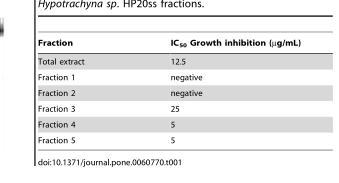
<table><thead><tr><td>Fraction</td><td>IC<sub>50</sub> Growth inhibition (µg/mL)</td></tr></thead><tbody><tr><td>Total extract</td><td>12.5</td></tr><tr><td>Fraction 1</td><td>negative</td></tr><tr><td>Fraction 2</td><td>negative</td></tr><tr><td>Fraction 3</td><td>25</td></tr><tr><td>Fraction 4</td><td>5</td></tr><tr><td>Fraction 5</td><td>5</td></tr></tbody></table>